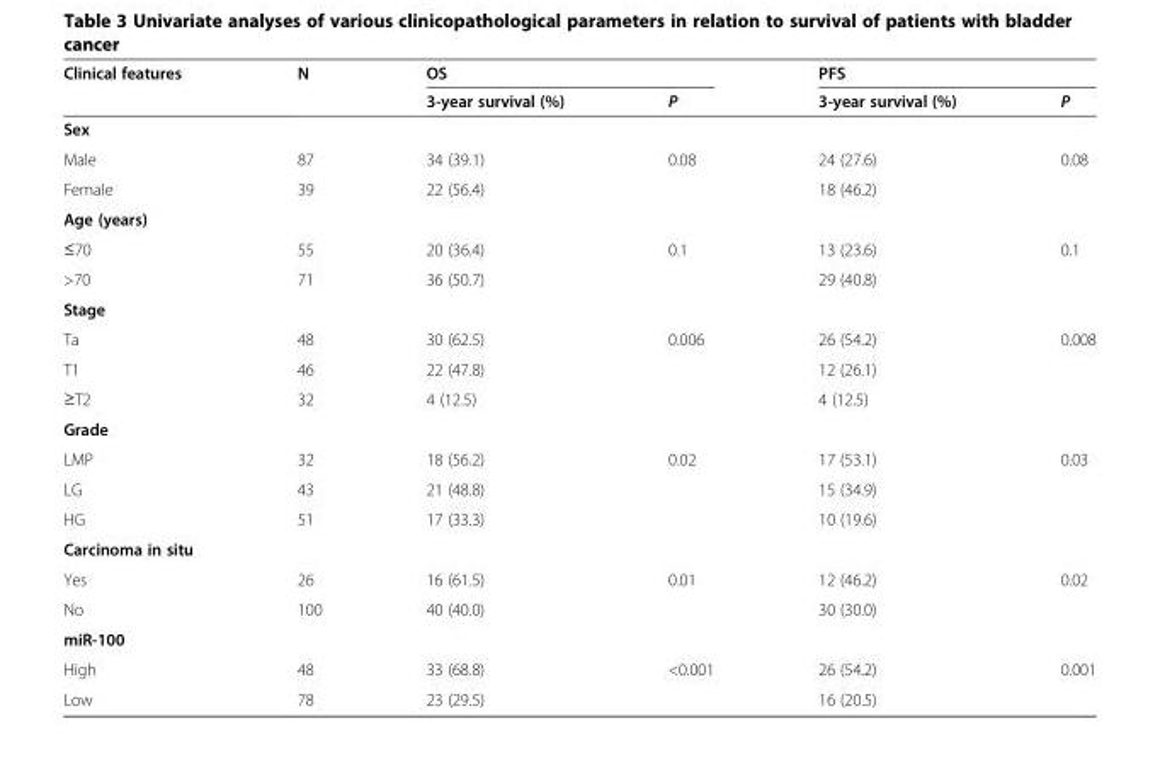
<table><thead><tr><td rowspan="2">Clinical features</td><td rowspan="2">N</td><td colspan="2">OS</td><td colspan="2">PFS</td></tr><tr><td>3-year survival (%)</td><td>P</td><td>3-year survival (%)</td><td>P</td></tr></thead><tbody><tr><td colspan="6">Sex</td></tr><tr><td>Male</td><td>87</td><td>34 (39.1)</td><td rowspan="2">0.08</td><td>24 (27.6)</td><td rowspan="2">0.08</td></tr><tr><td>Female</td><td>39</td><td>22 (56.4)</td><td>18 (46.2)</td></tr><tr><td colspan="6">Age (years)</td></tr><tr><td>≤70</td><td>55</td><td>20 (36.4)</td><td rowspan="2">0.1</td><td>13 (23.6)</td><td rowspan="2">0.1</td></tr><tr><td>&gt;70</td><td>71</td><td>36 (50.7)</td><td>29 (40.8)</td></tr><tr><td colspan="6">Stage</td></tr><tr><td>Ta</td><td>48</td><td>30 (62.5)</td><td rowspan="3">0.006</td><td>26 (54.2)</td><td rowspan="3">0.008</td></tr><tr><td>T1</td><td>46</td><td>22 (47.8)</td><td>12 (26.1)</td></tr><tr><td>≥T2</td><td>32</td><td>4 (12.5)</td><td>4 (12.5)</td></tr><tr><td colspan="6">Grade</td></tr><tr><td>LMP</td><td>32</td><td>18 (56.2)</td><td rowspan="3">0.02</td><td>17 (53.1)</td><td rowspan="3">0.03</td></tr><tr><td>LG</td><td>43</td><td>21 (48.8)</td><td>15 (34.9)</td></tr><tr><td>HG</td><td>51</td><td>17 (33.3)</td><td>10 (19.6)</td></tr><tr><td colspan="6">Carcinoma in situ</td></tr><tr><td>Yes</td><td>26</td><td>16 (61.5)</td><td rowspan="2">0.01</td><td>12 (46.2)</td><td rowspan="2">0.02</td></tr><tr><td>No</td><td>100</td><td>40 (40.0)</td><td>30 (30.0)</td></tr><tr><td colspan="6">miR-100</td></tr><tr><td>High</td><td>48</td><td>33 (68.8)</td><td rowspan="2">&lt;0.001</td><td>26 (54.2)</td><td rowspan="2">0.001</td></tr><tr><td>Low</td><td>78</td><td>23 (29.5)</td><td>16 (20.5)</td></tr></tbody></table>